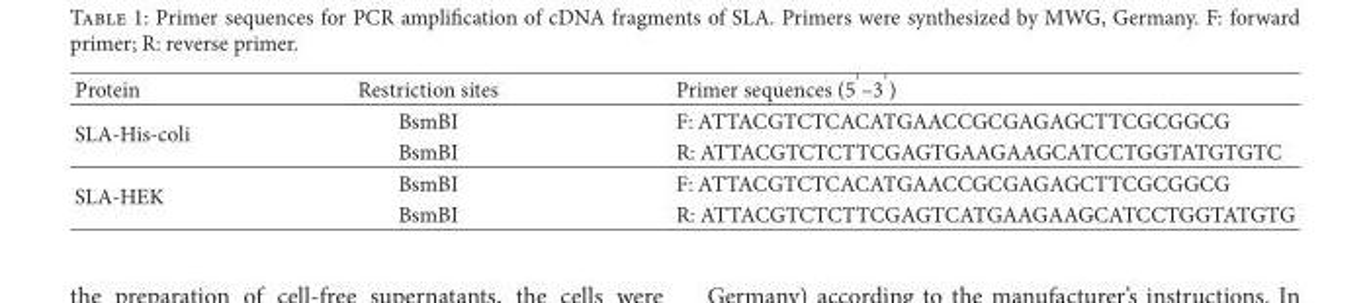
<table><thead><tr><td>Protein</td><td>Restriction sites</td><td>Primer sequences (5<sup>′</sup>–3<sup>′</sup>)</td></tr></thead><tbody><tr><td rowspan="2">SLA-His-coli</td><td>BsmBI</td><td>F: ATTACGTCTCACATGAACCGCGAGAGCTTCGCGGCG</td></tr><tr><td>BsmBI</td><td>R: ATTACGTCTCTTCGAGTGAAGAAGCATCCTGGTATGTGTC</td></tr><tr><td rowspan="2">SLA-HEK</td><td>BsmBI</td><td>F: ATTACGTCTCACATGAACCGCGAGAGCTTCGCGGCG</td></tr><tr><td>BsmBI</td><td>R: ATTACGTCTCTTCGAGTCATGAAGAAGCATCCTGGTATGTG</td></tr></tbody></table>